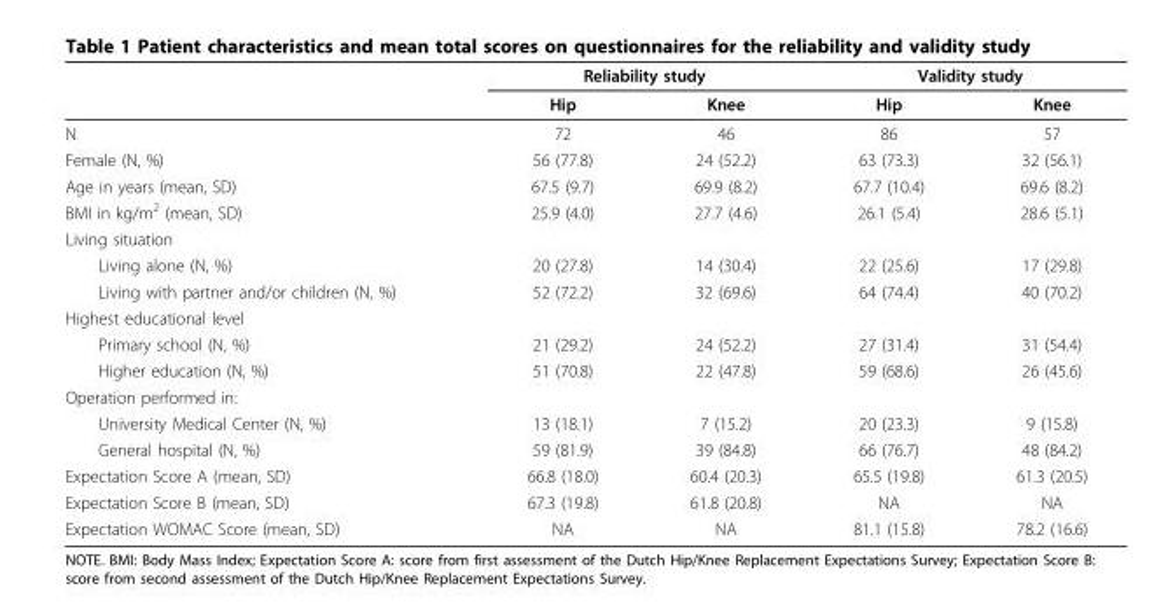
<table><thead><tr><td rowspan="2"></td><td colspan="2">Reliability study</td><td colspan="2">Validity study</td></tr><tr><td>Hip</td><td>Knee</td><td>Hip</td><td>Knee</td></tr></thead><tbody><tr><td>N</td><td>72</td><td>46</td><td>86</td><td>57</td></tr><tr><td>Female (N, %)</td><td>56 (77.8)</td><td>24 (52.2)</td><td>63 (73.3)</td><td>32 (56.1)</td></tr><tr><td>Age in years (mean, SD)</td><td>67.5 (9.7)</td><td>69.9 (8.2)</td><td>67.7 (10.4)</td><td>69.6 (8.2)</td></tr><tr><td>BMI in kg/m<sup>2</sup> (mean, SD)</td><td>25.9 (4.0)</td><td>27.7 (4.6)</td><td>26.1 (5.4)</td><td>28.6 (5.1)</td></tr><tr><td colspan="5">Living situation</td></tr><tr><td>Living alone (N, %)</td><td>20 (27.8)</td><td>14 (30.4)</td><td>22 (25.6)</td><td>17 (29.8)</td></tr><tr><td>Living with partner and/or children (N, %)</td><td>52 (72.2)</td><td>32 (69.6)</td><td>64 (74.4)</td><td>40 (70.2)</td></tr><tr><td colspan="5">Highest educational level</td></tr><tr><td>Primary school (N, %)</td><td>21 (29.2)</td><td>24 (52.2)</td><td>27 (31.4)</td><td>31 (54.4)</td></tr><tr><td>Higher education (N, %)</td><td>51 (70.8)</td><td>22 (47.8)</td><td>59 (68.6)</td><td>26 (45.6)</td></tr><tr><td colspan="5">Operation performed in:</td></tr><tr><td>University Medical Center (N, %)</td><td>13 (18.1)</td><td>7 (15.2)</td><td>20 (23.3)</td><td>9 (15.8)</td></tr><tr><td>General hospital (N, %)</td><td>59 (81.9)</td><td>39 (84.8)</td><td>66 (76.7)</td><td>48 (84.2)</td></tr><tr><td>Expectation Score A (mean, SD)</td><td>66.8 (18.0)</td><td>60.4 (20.3)</td><td>65.5 (19.8)</td><td>61.3 (20.5)</td></tr><tr><td>Expectation Score B (mean, SD)</td><td>67.3 (19.8)</td><td>61.8 (20.8)</td><td>NA</td><td>NA</td></tr><tr><td>Expectation WOMAC Score (mean, SD)</td><td>NA</td><td>NA</td><td>81.1 (15.8)</td><td>78.2 (16.6)</td></tr></tbody></table>